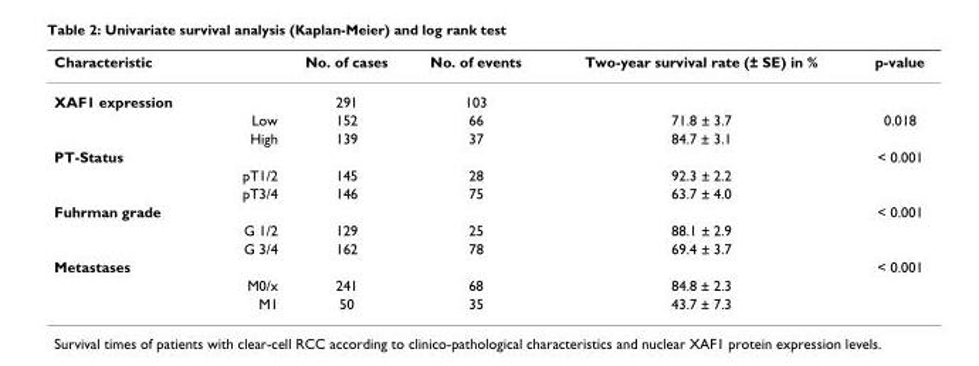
<table><thead><tr><td colspan="2">Characteristic</td><td rowspan="2">No. of cases 291</td><td rowspan="2">No. of events 103</td><td rowspan="2">Two-year survival rate (± SE) in %</td><td rowspan="2">p-value</td></tr><tr><td>XAF1 expression</td><td></td></tr></thead><tbody><tr><td></td><td>Low</td><td>152</td><td>66</td><td>71.8 ± 3.7</td><td>0.018</td></tr><tr><td></td><td>High</td><td>139</td><td>37</td><td>84.7 ± 3.1</td><td></td></tr><tr><td rowspan="3">PT-Status</td><td></td><td></td><td></td><td></td><td>&lt; 0.001</td></tr><tr><td>pT1/2</td><td>145</td><td>28</td><td>92.3 ± 2.2</td><td></td></tr><tr><td>pT3/4</td><td>146</td><td>75</td><td>63.7 ± 4.0</td><td></td></tr><tr><td rowspan="3">Fuhrman grade</td><td></td><td></td><td></td><td></td><td>&lt; 0.001</td></tr><tr><td>G 1/2</td><td>129</td><td>25</td><td>88.1 ± 2.9</td><td></td></tr><tr><td>G 3/4</td><td>162</td><td>78</td><td>69.4 ± 3.7</td><td></td></tr><tr><td rowspan="3">Metastases</td><td></td><td></td><td></td><td></td><td>&lt; 0.001</td></tr><tr><td>M0/x</td><td>241</td><td>68</td><td>84.8 ± 2.3</td><td></td></tr><tr><td>M1</td><td>50</td><td>35</td><td>43.7 ± 7.3</td><td></td></tr></tbody></table>